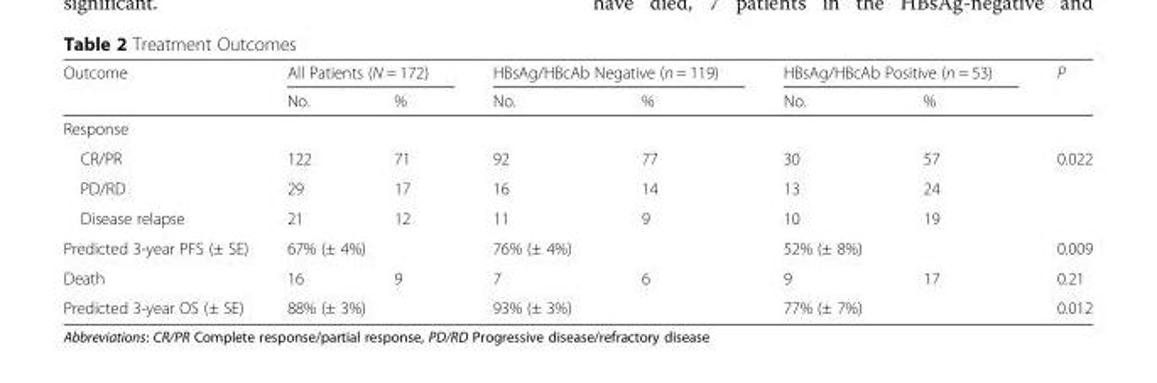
<table><thead><tr><td rowspan="2">Outcome</td><td colspan="2">All Patients (N = 172)</td><td colspan="2">HBsAg/HBcAb Negative (n = 119)</td><td colspan="2">HBsAg/HBcAb Positive (n = 53)</td><td rowspan="2">P</td></tr><tr><td>No.</td><td>%</td><td>No.</td><td>%</td><td>No.</td><td>%</td></tr></thead><tbody><tr><td colspan="8">Response</td></tr><tr><td>CR/PR</td><td>122</td><td>71</td><td>92</td><td>77</td><td>30</td><td>57</td><td>0.022</td></tr><tr><td>PD/RD</td><td>29</td><td>17</td><td>16</td><td>14</td><td>13</td><td>24</td><td rowspan="2"></td></tr><tr><td>Disease relapse</td><td>21</td><td>12</td><td>11</td><td>9</td><td>10</td><td>19</td></tr><tr><td>Predicted 3-year PFS (± SE)</td><td colspan="2">67% (± 4%)</td><td colspan="2">76% (± 4%)</td><td colspan="2">52% (± 8%)</td><td>0.009</td></tr><tr><td>Death</td><td>16</td><td>9</td><td>7</td><td>6</td><td>9</td><td>17</td><td>0.21</td></tr><tr><td>Predicted 3-year OS (± SE)</td><td colspan="2">88% (± 3%)</td><td colspan="2">93% (± 3%)</td><td colspan="2">77% (± 7%)</td><td>0.012</td></tr></tbody></table>